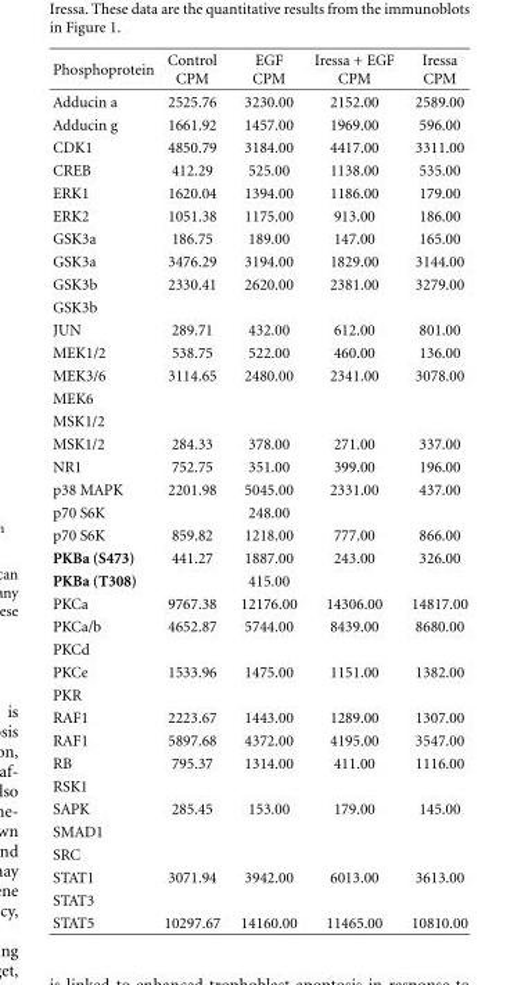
<table><thead><tr><td>Phosphoprotein</td><td>Control CPM</td><td>EGF CPM</td><td>Iressa + EGF CPM</td><td>Iressa CPM</td></tr></thead><tbody><tr><td>Adducin a</td><td>2525.76</td><td>3230.00</td><td>2152.00</td><td>2589.00</td></tr><tr><td>Adducin g</td><td>1661.92</td><td>1457.00</td><td>1969.00</td><td>596.00</td></tr><tr><td>CDK1</td><td>4850.79</td><td>3184.00</td><td>4417.00</td><td>3311.00</td></tr><tr><td>CREB</td><td>412.29</td><td>525.00</td><td>1138.00</td><td>535.00</td></tr><tr><td>ERK1</td><td>1620.04</td><td>1394.00</td><td>1186.00</td><td>179.00</td></tr><tr><td>ERK2</td><td>1051.38</td><td>1175.00</td><td>913.00</td><td>186.00</td></tr><tr><td>GSK3a</td><td>186.75</td><td>189.00</td><td>147.00</td><td>165.00</td></tr><tr><td>GSK3a</td><td>3476.29</td><td>3194.00</td><td>1829.00</td><td>3144.00</td></tr><tr><td>GSK3b</td><td>2330.41</td><td>2620.00</td><td>2381.00</td><td>3279.00</td></tr><tr><td colspan="5">GSK3b</td></tr><tr><td>JUN</td><td>289.71</td><td>432.00</td><td>612.00</td><td>801.00</td></tr><tr><td>MEK1/2</td><td>538.75</td><td>522.00</td><td>460.00</td><td>136.00</td></tr><tr><td>MEK3/6</td><td>3114.65</td><td>2480.00</td><td>2341.00</td><td>3078.00</td></tr><tr><td colspan="5">MEK6</td></tr><tr><td colspan="5">MSK1/2</td></tr><tr><td>MSK1/2</td><td>284.33</td><td>378.00</td><td>271.00</td><td>337.00</td></tr><tr><td>NR1</td><td>752.75</td><td>351.00</td><td>399.00</td><td>196.00</td></tr><tr><td>p38 MAPK</td><td>2201.98</td><td>5045.00</td><td>2331.00</td><td>437.00</td></tr><tr><td>p70 S6K</td><td></td><td>248.00</td><td></td><td></td></tr><tr><td>p70 S6K</td><td>859.82</td><td>1218.00</td><td>777.00</td><td>866.00</td></tr><tr><td>PKBa (S473)</td><td>441.27</td><td>1887.00</td><td>243.00</td><td>326.00</td></tr><tr><td>PKBa (T308)</td><td></td><td>415.00</td><td></td><td></td></tr><tr><td>PKCa</td><td>9767.38</td><td>12176.00</td><td>14306.00</td><td>14817.00</td></tr><tr><td>PKCa/b</td><td>4652.87</td><td>5744.00</td><td>8439.00</td><td>8680.00</td></tr><tr><td colspan="5">PKCd</td></tr><tr><td>PKCe</td><td>1533.96</td><td>1475.00</td><td>1151.00</td><td>1382.00</td></tr><tr><td colspan="5">PKR</td></tr><tr><td>RAF1</td><td>2223.67</td><td>1443.00</td><td>1289.00</td><td>1307.00</td></tr><tr><td>RAF1</td><td>5897.68</td><td>4372.00</td><td>4195.00</td><td>3547.00</td></tr><tr><td>RB</td><td>795.37</td><td>1314.00</td><td>411.00</td><td>1116.00</td></tr><tr><td colspan="5">RSK1</td></tr><tr><td>SAPK</td><td>285.45</td><td>153.00</td><td>179.00</td><td>145.00</td></tr><tr><td colspan="5">SMAD1</td></tr><tr><td colspan="5">SRC</td></tr><tr><td>STAT1</td><td>3071.94</td><td>3942.00</td><td>6013.00</td><td>3613.00</td></tr><tr><td colspan="5">STAT3</td></tr><tr><td>STAT5</td><td>10297.67</td><td>14160.00</td><td>11465.00</td><td>10810.00</td></tr></tbody></table>